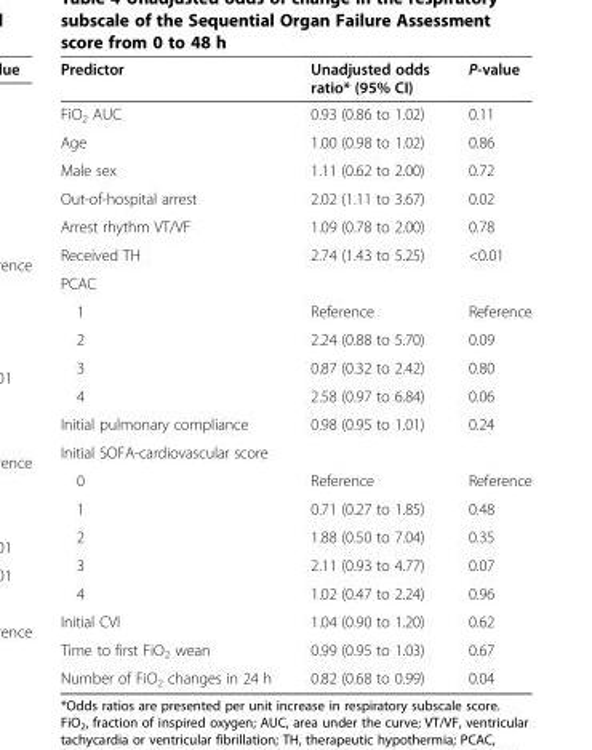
<table><thead><tr><td>Predictor</td><td>Unadjusted odds ratio* (95% CI)</td><td>P-value</td></tr></thead><tbody><tr><td>FiO<sub>2</sub> AUC</td><td>0.93 (0.86 to 1.02)</td><td>0.11</td></tr><tr><td>Age</td><td>1.00 (0.98 to 1.02)</td><td>0.86</td></tr><tr><td>Male sex</td><td>1.11 (0.62 to 2.00)</td><td>0.72</td></tr><tr><td>Out-of-hospital arrest</td><td>2.02 (1.11 to 3.67)</td><td>0.02</td></tr><tr><td>Arrest rhythm VT/VF</td><td>1.09 (0.78 to 2.00)</td><td>0.78</td></tr><tr><td>Received TH</td><td>2.74 (1.43 to 5.25)</td><td>&lt;0.01</td></tr><tr><td colspan="3">PCAC</td></tr><tr><td>1</td><td>Reference</td><td>Reference</td></tr><tr><td>2</td><td>2.24 (0.88 to 5.70)</td><td>0.09</td></tr><tr><td>3</td><td>0.87 (0.32 to 2.42)</td><td>0.80</td></tr><tr><td>4</td><td>2.58 (0.97 to 6.84)</td><td>0.06</td></tr><tr><td>Initial pulmonary compliance</td><td>0.98 (0.95 to 1.01)</td><td>0.24</td></tr><tr><td colspan="3">Initial SOFA-cardiovascular score</td></tr><tr><td>0</td><td>Reference</td><td>Reference</td></tr><tr><td>1</td><td>0.71 (0.27 to 1.85)</td><td>0.48</td></tr><tr><td>2</td><td>1.88 (0.50 to 7.04)</td><td>0.35</td></tr><tr><td>3</td><td>2.11 (0.93 to 4.77)</td><td>0.07</td></tr><tr><td>4</td><td>1.02 (0.47 to 2.24)</td><td>0.96</td></tr><tr><td>Initial CVI</td><td>1.04 (0.90 to 1.20)</td><td>0.62</td></tr><tr><td>Time to first FiO<sub>2</sub> wean</td><td>0.99 (0.95 to 1.03)</td><td>0.67</td></tr><tr><td>Number of FiO<sub>2</sub> changes in 24 h</td><td>0.82 (0.68 to 0.99)</td><td>0.04</td></tr></tbody></table>